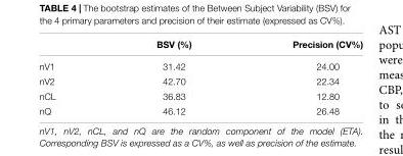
<table><thead><tr><td></td><td>BSV (%)</td><td>Precision (CV%)</td></tr></thead><tbody><tr><td>nV1</td><td>31.42</td><td>24.00</td></tr><tr><td>nV2</td><td>42.70</td><td>22.34</td></tr><tr><td>nCL</td><td>36.83</td><td>12.80</td></tr><tr><td>nQ</td><td>46.12</td><td>26.48</td></tr></tbody></table>